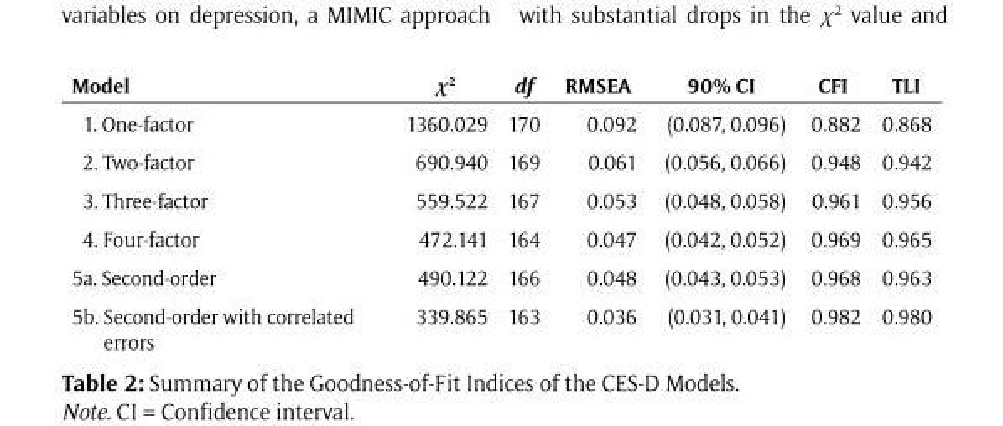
<table><thead><tr><td colspan="2">Model</td><td rowspan="2">χ2 1360.029</td><td rowspan="2">df 170</td><td rowspan="2">RMSEA 0.092</td><td rowspan="2">90% CI (0.087, 0.096)</td><td rowspan="2">CFI 0.882</td><td rowspan="2">TLI 0.868</td></tr><tr><td>1.</td><td>One-factor</td></tr></thead><tbody><tr><td>2.</td><td>Two-factor</td><td>690.940</td><td>169</td><td>0.061</td><td>(0.056, 0.066)</td><td>0.948</td><td>0.942</td></tr><tr><td>3.</td><td>Three-factor</td><td>559.522</td><td>167</td><td>0.053</td><td>(0.048, 0.058)</td><td>0.961</td><td>0.956</td></tr><tr><td>4.</td><td>Four-factor</td><td>472.141</td><td>164</td><td>0.047</td><td>(0.042, 0.052)</td><td>0.969</td><td>0.965</td></tr><tr><td>5a.</td><td>Second-order</td><td>490.122</td><td>166</td><td>0.048</td><td>(0.043, 0.053)</td><td>0.968</td><td>0.963</td></tr><tr><td>5b.</td><td>Second-order with correlated errors</td><td>339.865</td><td>163</td><td>0.036</td><td>(0.031, 0.041)</td><td>0.982</td><td>0.980</td></tr></tbody></table>